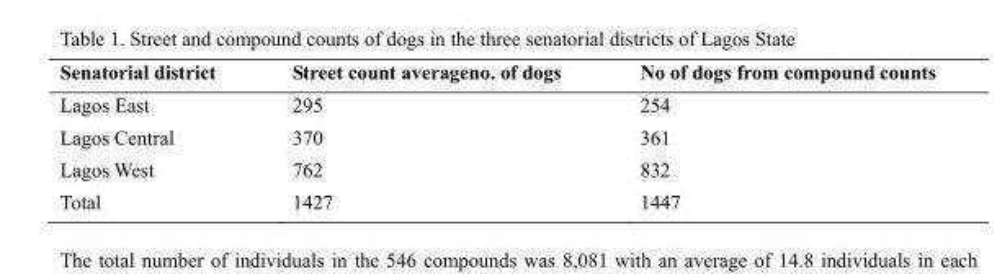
<table><thead><tr><td>Senatorial district</td><td>Street count averageno. of dogs</td><td>No of dogs from compound counts</td></tr></thead><tbody><tr><td>Lagos East</td><td>295</td><td>254</td></tr><tr><td>Lagos Central</td><td>370</td><td>361</td></tr><tr><td>Lagos West</td><td>762</td><td>832</td></tr><tr><td>Total</td><td>1427</td><td>1447</td></tr></tbody></table>